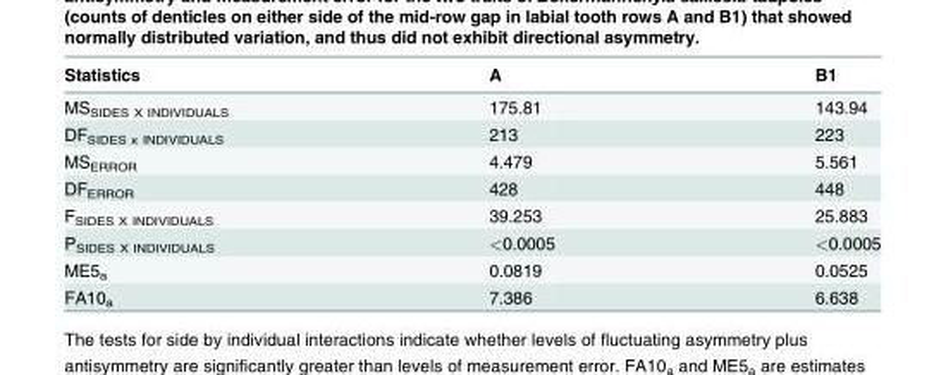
<table><thead><tr><td>Statistics</td><td>A</td><td>B1</td></tr></thead><tbody><tr><td>MS<sub>SIDES X INDIVIDUALS</sub></td><td>175.81</td><td>143.94</td></tr><tr><td>DF<sub>SIDES x INDIVIDUALS</sub></td><td>213</td><td>223</td></tr><tr><td>MS<sub>ERROR</sub></td><td>4.479</td><td>5.561</td></tr><tr><td>DF<sub>ERROR</sub></td><td>428</td><td>448</td></tr><tr><td>F<sub>SIDES X INDIVIDUALS</sub></td><td>39.253</td><td>25.883</td></tr><tr><td>P<sub>SIDES X INDIVIDUALS</sub></td><td>&lt;0.0005</td><td>&lt;0.0005</td></tr><tr><td>ME5<sub>a</sub></td><td>0.0819</td><td>0.0525</td></tr><tr><td>FA10<sub>a</sub></td><td>7.386</td><td>6.638</td></tr></tbody></table>